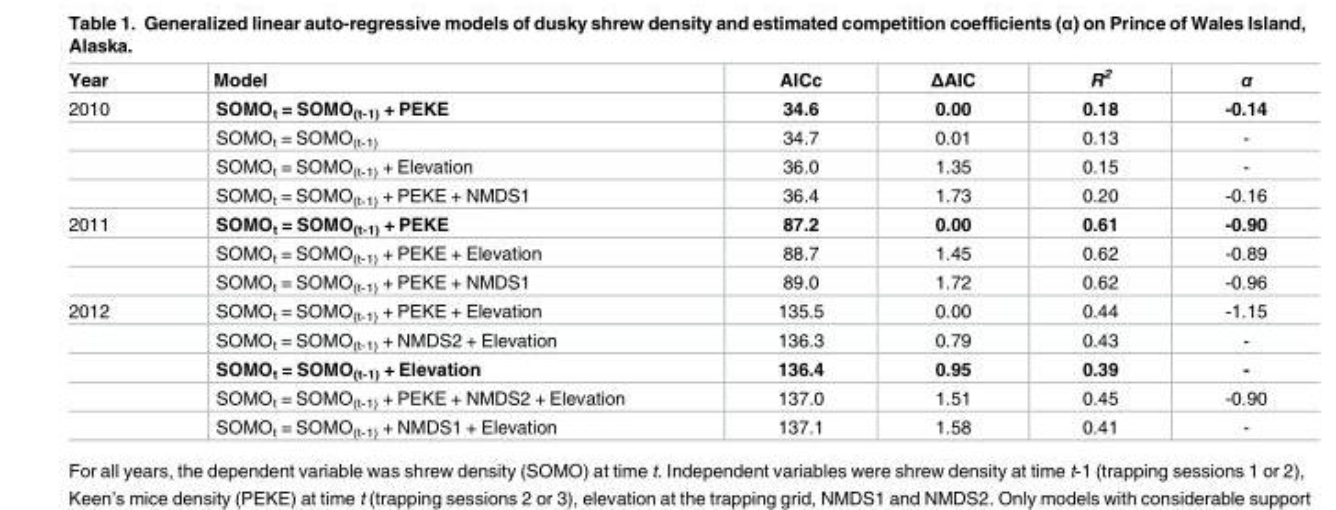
<table><thead><tr><td>Year</td><td>Model</td><td>AICc</td><td>ΔAIC</td><td>R<sup>2</sup></td><td>α</td></tr></thead><tbody><tr><td rowspan="4">2010</td><td>SOMO<sub>t</sub> = SOMO<sub>(t-1)</sub> + PEKE</td><td>34.6</td><td>0.00</td><td>0.18</td><td>-0.14</td></tr><tr><td>SOMO<sub>t</sub> = SOMO<sub>(t-1)</sub></td><td>34.7</td><td>0.01</td><td>0.13</td><td>-</td></tr><tr><td>SOMO<sub>t</sub> = SOMO<sub>(t-1)</sub> + Elevation</td><td>36.0</td><td>1.35</td><td>0.15</td><td>-</td></tr><tr><td>SOMO<sub>t</sub> = SOMO<sub>(t-1)</sub> + PEKE + NMDS1</td><td>36.4</td><td>1.73</td><td>0.20</td><td>-0.16</td></tr><tr><td rowspan="3">2011</td><td>SOMO<sub>t</sub> = SOMO<sub>(t-1)</sub> + PEKE</td><td>87.2</td><td>0.00</td><td>0.61</td><td>-0.90</td></tr><tr><td>SOMO<sub>t</sub> = SOMO<sub>(t-1)</sub> + PEKE + Elevation</td><td>88.7</td><td>1.45</td><td>0.62</td><td>-0.89</td></tr><tr><td>SOMO<sub>t</sub> = SOMO<sub>(t-1)</sub> + PEKE + NMDS1</td><td>89.0</td><td>1.72</td><td>0.62</td><td>-0.96</td></tr><tr><td rowspan="5">2012</td><td>SOMO<sub>t</sub> = SOMO<sub>(t-1)</sub> + PEKE + Elevation</td><td>135.5</td><td>0.00</td><td>0.44</td><td>-1.15</td></tr><tr><td>SOMO<sub>t</sub> = SOMO<sub>(t-1)</sub> + NMDS2 + Elevation</td><td>136.3</td><td>0.79</td><td>0.43</td><td>-</td></tr><tr><td>SOMO<sub>t</sub> = SOMO<sub>(t-1)</sub> + Elevation</td><td>136.4</td><td>0.95</td><td>0.39</td><td>-</td></tr><tr><td>SOMO<sub>t</sub> = SOMO<sub>(t-1)</sub> + PEKE + NMDS2 + Elevation</td><td>137.0</td><td>1.51</td><td>0.45</td><td>-0.90</td></tr><tr><td>SOMO<sub>t</sub> = SOMO<sub>(t-1)</sub> + NMDS1 + Elevation</td><td>137.1</td><td>1.58</td><td>0.41</td><td>-</td></tr></tbody></table>